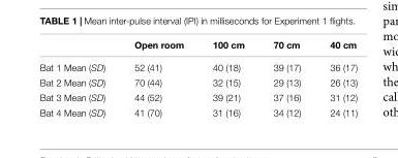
<table><thead><tr><td></td><td>Open room</td><td>100 cm</td><td>70 cm</td><td>40 cm</td></tr></thead><tbody><tr><td>Bat 1 Mean (SD)</td><td>52 (41)</td><td>40 (18)</td><td>39 (17)</td><td>36 (17)</td></tr><tr><td>Bat 2 Mean (SD)</td><td>70 (44)</td><td>32 (15)</td><td>29 (13)</td><td>26 (13)</td></tr><tr><td>Bat 3 Mean (SD)</td><td>44 (52)</td><td>39 (21)</td><td>37 (16)</td><td>31 (12)</td></tr><tr><td>Bat 4 Mean (SD)</td><td>41 (70)</td><td>31 (16)</td><td>34 (12)</td><td>24 (11)</td></tr></tbody></table>